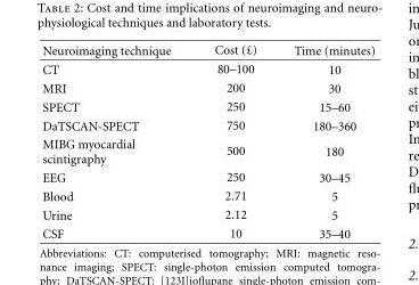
<table><thead><tr><td>Neuroimaging technique</td><td>Cost (£)</td><td>Time (minutes)</td></tr></thead><tbody><tr><td>CT</td><td>80–100</td><td>10</td></tr><tr><td>MRI</td><td>200</td><td>30</td></tr><tr><td>SPECT</td><td>250</td><td>15–60</td></tr><tr><td>DaTSCAN-SPECT</td><td>750</td><td>180–360</td></tr><tr><td>MIBG myocardial scintigraphy</td><td>500</td><td>180</td></tr><tr><td>EEG</td><td>250</td><td>30–45</td></tr><tr><td>Blood</td><td>2.71</td><td>5</td></tr><tr><td>Urine</td><td>2.12</td><td>5</td></tr><tr><td>CSF</td><td>10</td><td>35–40</td></tr></tbody></table>